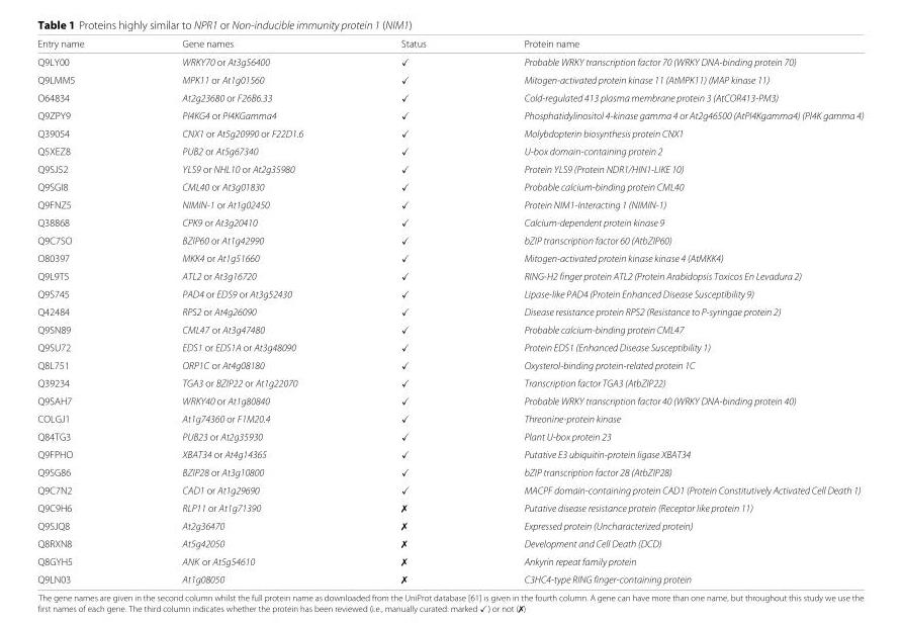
<table><thead><tr><td>Entry name</td><td>Gene names</td><td>Status</td><td>Protein name</td></tr></thead><tbody><tr><td>Q9LY00</td><td>WRKY70 or At3g56400</td><td>✓</td><td>Probable WRKY transcription factor 70 (WRKY DNA-binding protein 70)</td></tr><tr><td>Q9LMM5</td><td>MPK11 or At1g01560</td><td>✓</td><td>Mitogen-activated protein kinase 11 (AtMPK11) (MAP kinase 11)</td></tr><tr><td>O64834</td><td>At2g23680 or F26B6.33</td><td>✓</td><td>Cold-regulated 413 plasma membrane protein 3 (AtCOR413-PM3)</td></tr><tr><td>Q9ZPY9</td><td>PI4KG4 or PI4KGamma4</td><td>✓</td><td>Phosphatidylinositol 4-kinase gamma 4 or At2g46500 (AtPI4Kgamma4) (PI4K gamma 4)</td></tr><tr><td>Q39054</td><td>CNX1 or At5g20990 or F22D1.6</td><td>✓</td><td>Molybdopterin biosynthesis protein CNX1</td></tr><tr><td>Q5XEZ8</td><td>PUB2 or At5g67340</td><td>✓</td><td>U-box domain-containing protein 2</td></tr><tr><td>Q9SJ52</td><td>YLS9 or NHL10 or At2g35980</td><td>✓</td><td>Protein YLS9 (Protein NDR1/HIN1-LIKE 10)</td></tr><tr><td>Q9SGI8</td><td>CML40 or At3g01830</td><td>✓</td><td>Probable calcium-binding protein CML40</td></tr><tr><td>Q9FNZ5</td><td>NIMIN-1 or At1g02450</td><td>✓</td><td>Protein NIM1-Interacting 1 (NIMIN-1)</td></tr><tr><td>Q38868</td><td>CPK9 or At3g20410</td><td>✓</td><td>Calcium-dependent protein kinase 9</td></tr><tr><td>Q9C7SO</td><td>BZIP60 or At1g42990</td><td>✓</td><td>bZIP transcription factor 60 (AtbZIP60)</td></tr><tr><td>O80397</td><td>MKK4 or At1g51660</td><td>✓</td><td>Mitogen-activated protein kinase kinase 4 (AtMKK4)</td></tr><tr><td>Q9L9T5</td><td>ATL2 or At3g16720</td><td>✓</td><td>RING-H2 finger protein ATL2 (Protein Arabidopsis Toxicos En Levadura 2)</td></tr><tr><td>Q9S745</td><td>PAD4 or EDS9 or At3g52430</td><td>✓</td><td>Lipase-like PAD4 (Protein Enhanced Disease Susceptibility 9)</td></tr><tr><td>Q42484</td><td>RPS2 or At4g26090</td><td>✓</td><td>Disease resistance protein RPS2 (Resistance to P-syringae protein 2)</td></tr><tr><td>Q9SN89</td><td>CML47 or At3g47480</td><td>✓</td><td>Probable calcium-binding protein CML47</td></tr><tr><td>Q9SU72</td><td>EDS1 or EDS1A or At3g48090</td><td>✓</td><td>Protein EDS1 (Enhanced Disease Susceptibility 1)</td></tr><tr><td>Q8L751</td><td>ORP1C or At4g08180</td><td>✓</td><td>Oxysterol-binding protein-related protein 1C</td></tr><tr><td>Q39234</td><td>TGA3 or BZIP22 or At1g22070</td><td>✓</td><td>Transcription factor TGA3 (AtbZIP22)</td></tr><tr><td>Q9SAH7</td><td>WRKY40 or At1g80840</td><td>✓</td><td>Probable WRKY transcription factor 40 (WRKY DNA-binding protein 40)</td></tr><tr><td>COLGJ1</td><td>At1g74360 or F1M20.4</td><td>✓</td><td>Threonine-protein kinase</td></tr><tr><td>Q84TG3</td><td>PUB23 or At2g35930</td><td>✓</td><td>Plant U-box protein 23</td></tr><tr><td>Q9FPHO</td><td>XBAT34 or At4g14365</td><td>✓</td><td>Putative E3 ubiquitin-protein ligase XBAT34</td></tr><tr><td>Q9SG86</td><td>BZIP28 or At3g10800</td><td>✓</td><td>bZIP transcription factor 28 (AtbZIP28)</td></tr><tr><td>Q9C7N2</td><td>CAD1 or At1g29690</td><td>✓</td><td>MACPF domain-containing protein CAD1 (Protein Constitutively Activated Cell Death 1)</td></tr><tr><td>Q9C9H6</td><td>RLP11 or At1g71390</td><td>✗</td><td>Putative disease resistance protein (Receptor like protein 11)</td></tr><tr><td>Q9SJQ8</td><td>At2g36470</td><td>✗</td><td>Expressed protein (Uncharacterized protein)</td></tr><tr><td>Q8RXN8</td><td>At5g42050</td><td>✗</td><td>Development and Cell Death (DCD)</td></tr><tr><td>Q8GYH5</td><td>ANK or At5g54610</td><td>✗</td><td>Ankyrin repeat family protein</td></tr><tr><td>Q9LN03</td><td>At1g08050</td><td>✗</td><td>C3HC4-type RING finger-containing protein</td></tr></tbody></table>